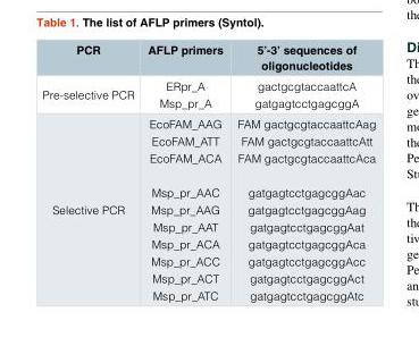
<table><thead><tr><td>PCR</td><td>AFLP primers</td><td>5’-3’ sequences of oligonucleotides</td></tr></thead><tbody><tr><td>Pre-selective PCR</td><td>ERpr_A Msp_pr_A</td><td>gactgcgtaccaattcA gatgagtcctgagcggA</td></tr><tr><td>Selective PCR</td><td>EcoFAM_AAG EcoFAM_ATT EcoFAM_ACA Msp_pr_AAC Msp_pr_AAG Msp_pr_AAT Msp_pr_ACA Msp_pr_ACC Msp_pr_ACT Msp_pr_ATC</td><td>FAM gactgcgtaccaattcAag FAM gactgcgtaccaattcAtt FAM gactgcgtaccaattcAca gatgagtcctgagcggAac gatgagtcctgagcggAag gatgagtcctgagcggAat gatgagtcctgagcggAca gatgagtcctgagcggAcc gatgagtcctgagcggAct gatgagtcctgagcggAtc</td></tr></tbody></table>